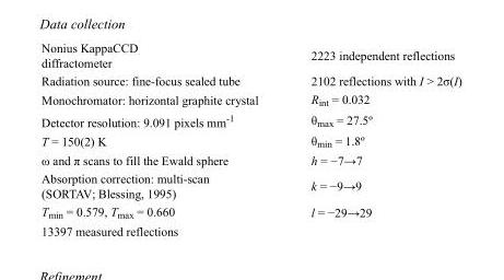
<table><tbody><tr><td>Nonius KappaCCD diffractometer</td><td>2223 independent reflections</td></tr><tr><td>Radiation source: fine-focus sealed tube</td><td>2102 reflections with I &gt; 2σ(I)</td></tr><tr><td>Monochromator: horizontal graphite crystal</td><td>R<sub>int</sub> = 0.032</td></tr><tr><td>Detector resolution: 9.091 pixels mm<sup>-1</sup></td><td>θ<sub>max</sub> = 27.5º</td></tr><tr><td>T = 150(2) K</td><td>θ<sub>min</sub> = 1.8º</td></tr><tr><td>ω and π scans to fill the Ewald sphere</td><td>h = −7→7</td></tr><tr><td>Absorption correction: multi-scan (SORTAV; Blessing, 1995)</td><td>k = −9→9</td></tr><tr><td>T<sub>min</sub> = 0.579, T<sub>max</sub> = 0.660</td><td>l = −29→29</td></tr><tr><td>13397 measured reflections</td><td></td></tr></tbody></table>